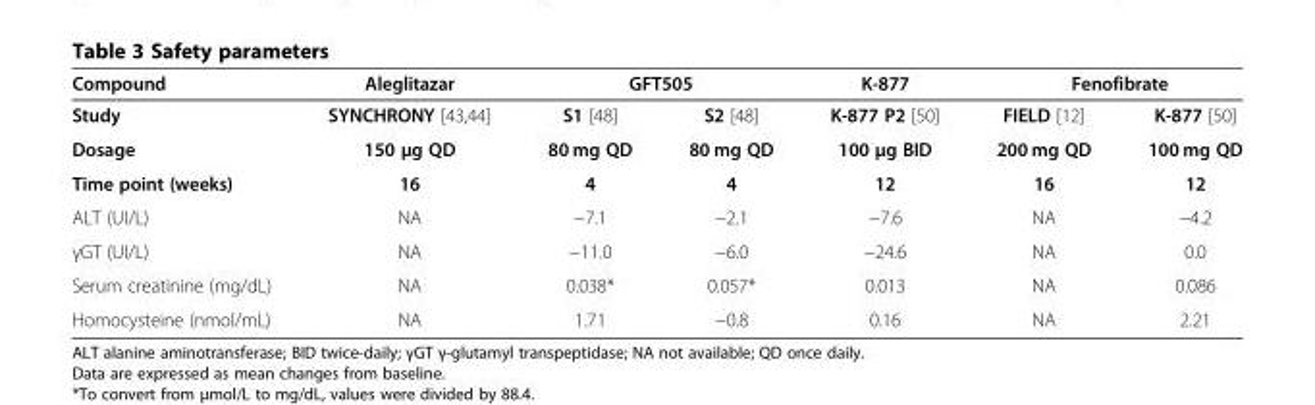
<table><thead><tr><td rowspan="2">Compound Study</td><td rowspan="2">Aleglitazar SYNCHRONY [43,44]</td><td colspan="2">GFT505</td><td rowspan="2">K-877 K-877 P2 [50]</td><td colspan="2">Fenofibrate</td></tr><tr><td>S1 [48]</td><td>S2 [48]</td><td>FIELD [12]</td><td>K-877 [50]</td></tr></thead><tbody><tr><td>Dosage</td><td>150 μg QD</td><td>80 mg QD</td><td>80 mg QD</td><td>100 μg BID</td><td>200 mg QD</td><td>100 mg QD</td></tr><tr><td>Time point (weeks)</td><td>16</td><td>4</td><td>4</td><td>12</td><td>16</td><td>12</td></tr><tr><td>ALT (UI/L)</td><td>NA</td><td>−7.1</td><td>−2.1</td><td>−7.6</td><td>NA</td><td>−4.2</td></tr><tr><td>γGT (UI/L)</td><td>NA</td><td>−11.0</td><td>−6.0</td><td>−24.6</td><td>NA</td><td>0.0</td></tr><tr><td>Serum creatinine (mg/dL)</td><td>NA</td><td>0.038*</td><td>0.057*</td><td>0.013</td><td>NA</td><td>0.086</td></tr><tr><td>Homocysteine (nmol/mL)</td><td>NA</td><td>1.71</td><td>−0.8</td><td>0.16</td><td>NA</td><td>2.21</td></tr></tbody></table>